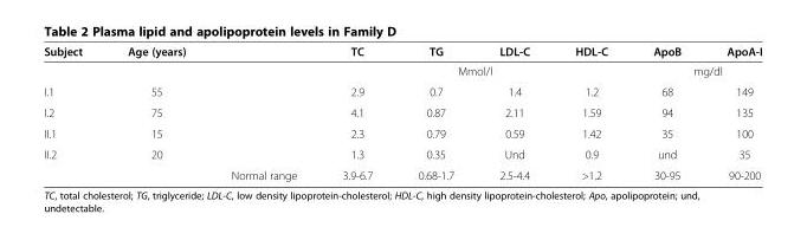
<table><thead><tr><td>Subject</td><td>Age (years)</td><td></td><td>TC</td><td>TG</td><td>LDL-C</td><td>HDL-C</td><td>ApoB</td><td>ApoA-I</td></tr></thead><tbody><tr><td colspan="3"></td><td colspan="4">Mmol/l</td><td colspan="2">mg/dl</td></tr><tr><td>I.1</td><td>55</td><td rowspan="4"></td><td>2.9</td><td>0.7</td><td>1.4</td><td>1.2</td><td>68</td><td>149</td></tr><tr><td>I.2</td><td>75</td><td>4.1</td><td>0.87</td><td>2.11</td><td>1.59</td><td>94</td><td>135</td></tr><tr><td>II.1</td><td>15</td><td>2.3</td><td>0.79</td><td>0.59</td><td>1.42</td><td>35</td><td>100</td></tr><tr><td rowspan="2">II.2</td><td rowspan="2">20</td><td>1.3</td><td>0.35</td><td>Und</td><td>0.9</td><td>und</td><td>35</td></tr><tr><td>Normal range</td><td>3.9-6.7</td><td>0.68-1.7</td><td>2.5-4.4</td><td>&gt;1.2</td><td>30-95</td><td>90-200</td></tr></tbody></table>